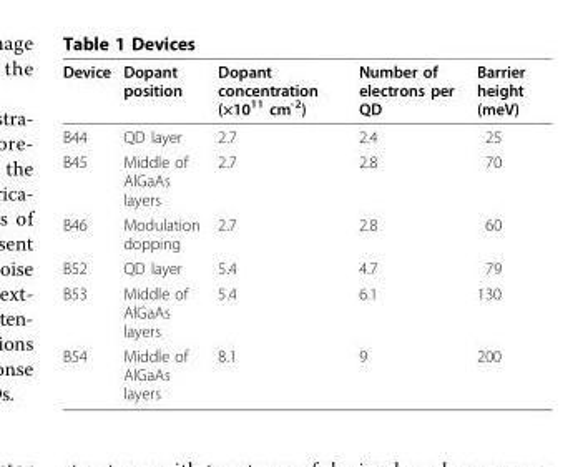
<table><thead><tr><td>Device</td><td>Dopant position</td><td>Dopant concentration (×10<sup>11</sup> cm<sup>-2</sup>)</td><td>Number of electrons per QD</td><td>Barrier height (meV)</td></tr></thead><tbody><tr><td>B44</td><td>QD layer</td><td>2.7</td><td>2.4</td><td>25</td></tr><tr><td>B45</td><td>Middle of AlGaAs layers</td><td>2.7</td><td>2.8</td><td>70</td></tr><tr><td>B46</td><td>Modulation dopping</td><td>2.7</td><td>2.8</td><td>60</td></tr><tr><td>B52</td><td>QD layer</td><td>5.4</td><td>4.7</td><td>79</td></tr><tr><td>B53</td><td>Middle of AlGaAs layers</td><td>5.4</td><td>6.1</td><td>130</td></tr><tr><td>B54</td><td>Middle of AlGaAs layers</td><td>8.1</td><td>9</td><td>200</td></tr></tbody></table>